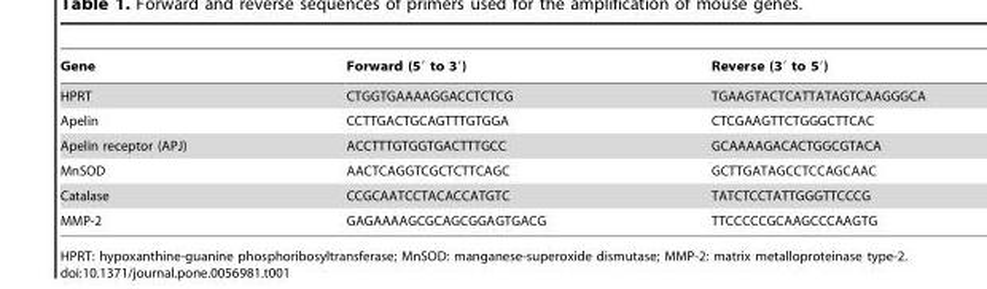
<table><thead><tr><td>Gene</td><td>Forward (5′ to 3′)</td><td>Reverse (3′ to 5′)</td></tr></thead><tbody><tr><td>HPRT</td><td>CTGGTGAAAAGGACCTCTCG</td><td>TGAAGTACTCATTATAGTCAAGGGCA</td></tr><tr><td>Apelin</td><td>CCTTGACTGCAGTTTGTGGA</td><td>CTCGAAGTTCTGGGCTTCAC</td></tr><tr><td>Apelin receptor (APJ)</td><td>ACCTTTGTGGTGACTTTGCC</td><td>GCAAAAGACACTGGCGTACA</td></tr><tr><td>MnSOD</td><td>AACTCAGGTCGCTCTTCAGC</td><td>GCTTGATAGCCTCCAGCAAC</td></tr><tr><td>Catalase</td><td>CCGCAATCCTACACCATGTC</td><td>TATCTCCTATTGGGTTCCCG</td></tr><tr><td>MMP-2</td><td>GAGAAAAGCGCAGCGGAGTGACG</td><td>TTCCCCCGCAAGCCCAAGTG</td></tr></tbody></table>